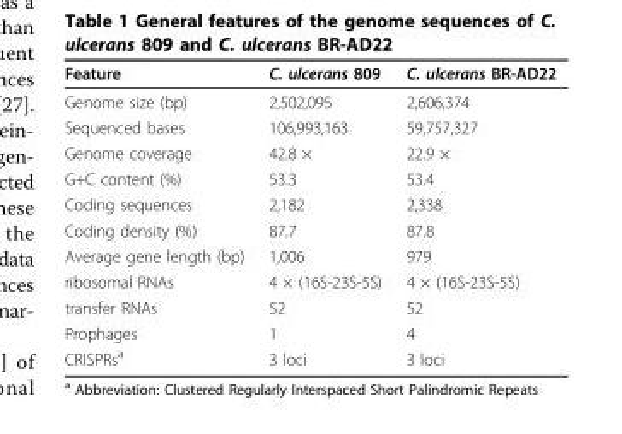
<table><thead><tr><td>Feature</td><td>C. ulcerans 809</td><td>C. ulcerans BR-AD22</td></tr></thead><tbody><tr><td>Genome size (bp)</td><td>2,502,095</td><td>2,606,374</td></tr><tr><td>Sequenced bases</td><td>106,993,163</td><td>59,757,327</td></tr><tr><td>Genome coverage</td><td>42.8 ×</td><td>22.9 ×</td></tr><tr><td>G+C content (%)</td><td>53.3</td><td>53.4</td></tr><tr><td>Coding sequences</td><td>2,182</td><td>2,338</td></tr><tr><td>Coding density (%)</td><td>87.7</td><td>87.8</td></tr><tr><td>Average gene length (bp)</td><td>1,006</td><td>979</td></tr><tr><td>ribosomal RNAs</td><td>4 × (16S-23S-5S)</td><td>4 × (16S-23S-5S)</td></tr><tr><td>transfer RNAs</td><td>52</td><td>52</td></tr><tr><td>Prophages</td><td>1</td><td>4</td></tr><tr><td>CRISPRs<sup>a</sup></td><td>3 loci</td><td>3 loci</td></tr></tbody></table>